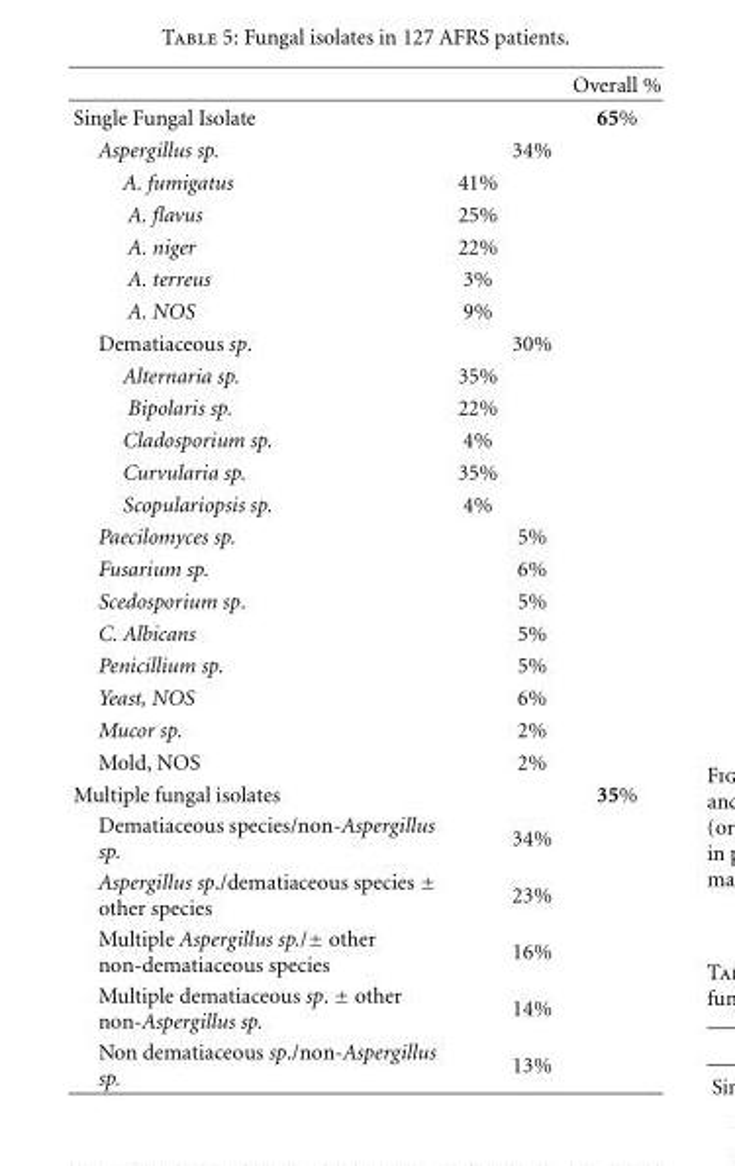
<table><thead><tr><td></td><td></td><td></td><td>Overall %</td></tr></thead><tbody><tr><td>Single Fungal Isolate</td><td></td><td></td><td>65%</td></tr><tr><td>Aspergillus sp.</td><td></td><td>34%</td><td></td></tr><tr><td>A. fumigatus</td><td>41%</td><td></td><td></td></tr><tr><td>A. flavus</td><td>25%</td><td></td><td></td></tr><tr><td>A. niger</td><td>22%</td><td></td><td></td></tr><tr><td>A. terreus</td><td>3%</td><td></td><td></td></tr><tr><td>A. NOS</td><td>9%</td><td></td><td></td></tr><tr><td>Dematiaceous sp.</td><td></td><td>30%</td><td></td></tr><tr><td>Alternaria sp.</td><td>35%</td><td></td><td></td></tr><tr><td>Bipolaris sp.</td><td>22%</td><td></td><td></td></tr><tr><td>Cladosporium sp.</td><td>4%</td><td></td><td></td></tr><tr><td>Curvularia sp.</td><td>35%</td><td></td><td></td></tr><tr><td>Scopulariopsis sp.</td><td>4%</td><td></td><td></td></tr><tr><td>Paecilomyces sp.</td><td></td><td>5%</td><td></td></tr><tr><td>Fusarium sp.</td><td></td><td>6%</td><td></td></tr><tr><td>Scedosporium sp.</td><td></td><td>5%</td><td></td></tr><tr><td>C. Albicans</td><td></td><td>5%</td><td></td></tr><tr><td>Penicillium sp.</td><td></td><td>5%</td><td></td></tr><tr><td>Yeast, NOS</td><td></td><td>6%</td><td></td></tr><tr><td>Mucor sp.</td><td></td><td>2%</td><td></td></tr><tr><td>Mold, NOS</td><td></td><td>2%</td><td></td></tr><tr><td>Multiple fungal isolates</td><td></td><td></td><td>35%</td></tr><tr><td>Dematiaceous species/non-Aspergillus sp.</td><td></td><td>34%</td><td></td></tr><tr><td>Aspergillus sp./dematiaceous species ± other species</td><td></td><td>23%</td><td></td></tr><tr><td>Multiple Aspergillus sp./± other non-dematiaceous species</td><td></td><td>16%</td><td></td></tr><tr><td>Multiple dematiaceous sp. ± other non-Aspergillus sp.</td><td></td><td>14%</td><td></td></tr><tr><td>Non dematiaceous sp./non-Aspergillus sp.</td><td></td><td>13%</td><td></td></tr></tbody></table>